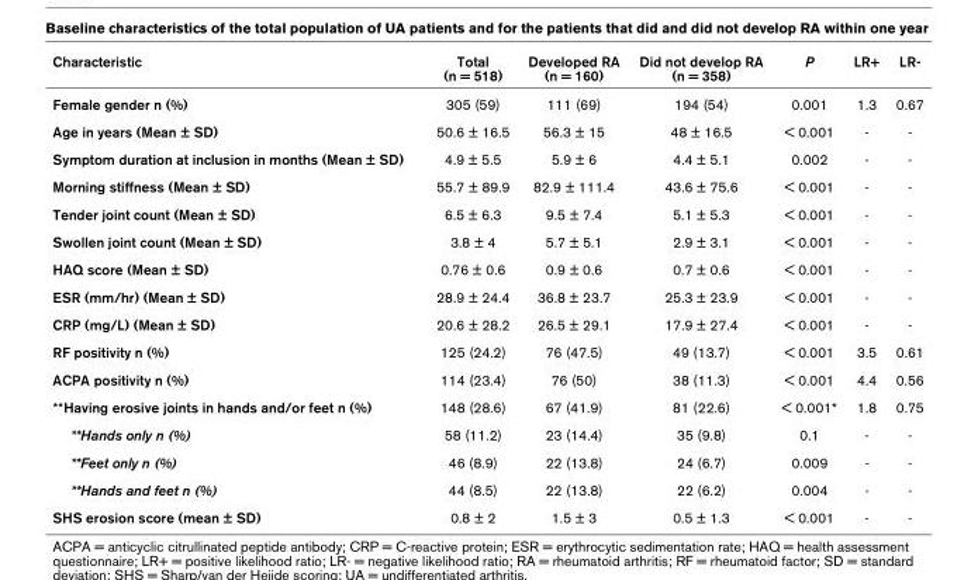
<table><thead><tr><td>Characteristic</td><td>Total (n = 518)</td><td>Developed RA (n = 160)</td><td>Did not develop RA (n = 358)</td><td>P</td><td>LR+</td><td>LR-</td></tr></thead><tbody><tr><td>Female gender n (%)</td><td>305 (59)</td><td>111 (69)</td><td>194 (54)</td><td>0.001</td><td>1.3</td><td>0.67</td></tr><tr><td>Age in years (Mean ± SD)</td><td>50.6 ± 16.5</td><td>56.3 ± 15</td><td>48 ± 16.5</td><td>&lt; 0.001</td><td>-</td><td>-</td></tr><tr><td>Symptom duration at inclusion in months (Mean ± SD)</td><td>4.9 ± 5.5</td><td>5.9 ± 6</td><td>4.4 ± 5.1</td><td>0.002</td><td>-</td><td>-</td></tr><tr><td>Morning stiffness (Mean ± SD)</td><td>55.7 ± 89.9</td><td>82.9 ± 111.4</td><td>43.6 ± 75.6</td><td>&lt; 0.001</td><td>-</td><td>-</td></tr><tr><td>Tender joint count (Mean ± SD)</td><td>6.5 ± 6.3</td><td>9.5 ± 7.4</td><td>5.1 ± 5.3</td><td>&lt; 0.001</td><td>-</td><td>-</td></tr><tr><td>Swollen joint count (Mean ± SD)</td><td>3.8 ± 4</td><td>5.7 ± 5.1</td><td>2.9 ± 3.1</td><td>&lt; 0.001</td><td>-</td><td>-</td></tr><tr><td>HAQ score (Mean ± SD)</td><td>0.76 ± 0.6</td><td>0.9 ± 0.6</td><td>0.7 ± 0.6</td><td>&lt; 0.001</td><td>-</td><td>-</td></tr><tr><td>ESR (mm/hr) (Mean ± SD)</td><td>28.9 ± 24.4</td><td>36.8 ± 23.7</td><td>25.3 ± 23.9</td><td>&lt; 0.001</td><td>-</td><td>-</td></tr><tr><td>CRP (mg/L) (Mean ± SD)</td><td>20.6 ± 28.2</td><td>26.5 ± 29.1</td><td>17.9 ± 27.4</td><td>&lt; 0.001</td><td>-</td><td>-</td></tr><tr><td>RF positivity n (%)</td><td>125 (24.2)</td><td>76 (47.5)</td><td>49 (13.7)</td><td>&lt; 0.001</td><td>3.5</td><td>0.61</td></tr><tr><td>ACPA positivity n (%)</td><td>114 (23.4)</td><td>76 (50)</td><td>38 (11.3)</td><td>&lt; 0.001</td><td>4.4</td><td>0.56</td></tr><tr><td>**Having erosive joints in hands and/or feet n (%)</td><td>148 (28.6)</td><td>67 (41.9)</td><td>81 (22.6)</td><td>&lt; 0.001*</td><td>1.8</td><td>0.75</td></tr><tr><td>**Hands only n (%)</td><td>58 (11.2)</td><td>23 (14.4)</td><td>35 (9.8)</td><td>0.1</td><td>-</td><td>-</td></tr><tr><td>**Feet only n (%)</td><td>46 (8.9)</td><td>22 (13.8)</td><td>24 (6.7)</td><td>0.009</td><td>-</td><td>-</td></tr><tr><td>**Hands and feet n (%)</td><td>44 (8.5)</td><td>22 (13.8)</td><td>22 (6.2)</td><td>0.004</td><td>-</td><td>-</td></tr><tr><td>SHS erosion score (mean ± SD)</td><td>0.8 ± 2</td><td>1.5 ± 3</td><td>0.5 ± 1.3</td><td>&lt; 0.001</td><td>-</td><td>-</td></tr></tbody></table>